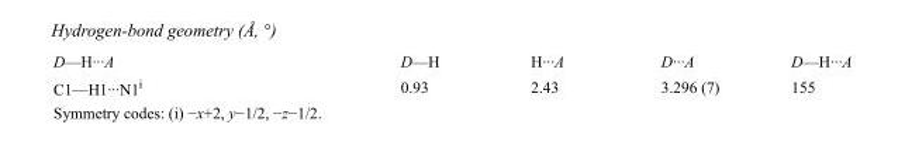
<table><tbody><tr><td>D—H···A</td><td>D—H</td><td>H···A</td><td>D···A</td><td>D—H···A</td></tr><tr><td>C1—H1···N1<sup>i</sup></td><td>0.93</td><td>2.43</td><td>3.296 (7)</td><td>155</td></tr></tbody></table>